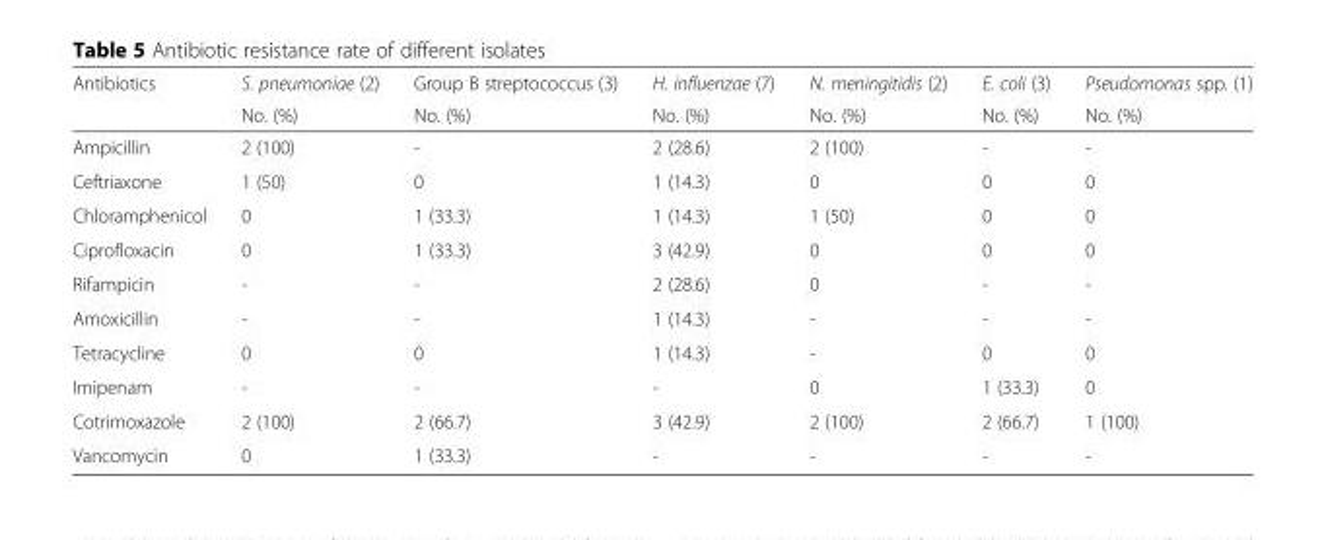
<table><thead><tr><td rowspan="2">Antibiotics</td><td rowspan="2">S. pneumoniae (2) No. (%)</td><td rowspan="2">Group B streptococcus (3) No. (%)</td><td rowspan="2">H. influenzae (7) No. (%)</td><td rowspan="2">N. meningitidis (2) No. (%)</td><td rowspan="2">E. coli (3) No. (%)</td><td rowspan="2">Pseudomonas spp. (1) No. (%)</td></tr><tr></tr></thead><tbody><tr><td>Ampicillin</td><td>2 (100)</td><td>-</td><td>2 (28.6)</td><td>2 (100)</td><td>-</td><td>-</td></tr><tr><td>Ceftriaxone</td><td>1 (50)</td><td>0</td><td>1 (14.3)</td><td>0</td><td>0</td><td>0</td></tr><tr><td>Chloramphenicol</td><td>0</td><td>1 (33.3)</td><td>1 (14.3)</td><td>1 (50)</td><td>0</td><td>0</td></tr><tr><td>Ciprofloxacin</td><td>0</td><td>1 (33.3)</td><td>3 (42.9)</td><td>0</td><td>0</td><td>0</td></tr><tr><td>Rifampicin</td><td>-</td><td>-</td><td>2 (28.6)</td><td>0</td><td>-</td><td>-</td></tr><tr><td>Amoxicillin</td><td>-</td><td>-</td><td>1 (14.3)</td><td>-</td><td>-</td><td>-</td></tr><tr><td>Tetracycline</td><td>0</td><td>0</td><td>1 (14.3)</td><td>-</td><td>0</td><td>0</td></tr><tr><td>Imipenam</td><td>-</td><td>-</td><td>-</td><td>0</td><td>1 (33.3)</td><td>0</td></tr><tr><td>Cotrimoxazole</td><td>2 (100)</td><td>2 (66.7)</td><td>3 (42.9)</td><td>2 (100)</td><td>2 (66.7)</td><td>1 (100)</td></tr><tr><td>Vancomycin</td><td>0</td><td>1 (33.3)</td><td>-</td><td>-</td><td>-</td><td>-</td></tr></tbody></table>